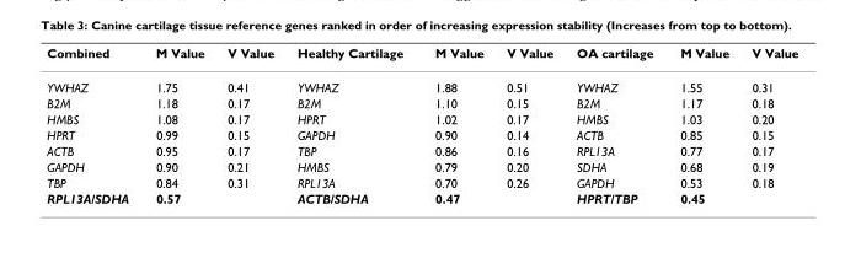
<table><thead><tr><td>Combined</td><td>M Value</td><td>V Value</td><td>Healthy Cartilage</td><td>M Value</td><td>V Value</td><td>OA cartilage</td><td>M Value</td><td>V Value</td></tr></thead><tbody><tr><td>YWHAZ</td><td>1.75</td><td>0.41</td><td>YWHAZ</td><td>1.88</td><td>0.51</td><td>YWHAZ</td><td>1.55</td><td>0.31</td></tr><tr><td>B2M</td><td>1.18</td><td>0.17</td><td>B2M</td><td>1.10</td><td>0.15</td><td>B2M</td><td>1.17</td><td>0.18</td></tr><tr><td>HMBS</td><td>1.08</td><td>0.17</td><td>HPRT</td><td>1.02</td><td>0.17</td><td>HMBS</td><td>1.03</td><td>0.20</td></tr><tr><td>HPRT</td><td>0.99</td><td>0.15</td><td>GAPDH</td><td>0.90</td><td>0.14</td><td>ACTB</td><td>0.85</td><td>0.15</td></tr><tr><td>ACTB</td><td>0.95</td><td>0.17</td><td>TBP</td><td>0.86</td><td>0.16</td><td>RPL13A</td><td>0.77</td><td>0.17</td></tr><tr><td>GAPDH</td><td>0.90</td><td>0.21</td><td>HMBS</td><td>0.79</td><td>0.20</td><td>SDHA</td><td>0.68</td><td>0.19</td></tr><tr><td>TBP</td><td>0.84</td><td>0.31</td><td>RPL13A</td><td>0.70</td><td>0.26</td><td>GAPDH</td><td>0.53</td><td>0.18</td></tr><tr><td>RPL13A/SDHA</td><td>0.57</td><td></td><td>ACTB/SDHA</td><td>0.47</td><td></td><td>HPRT/TBP</td><td>0.45</td><td></td></tr></tbody></table>